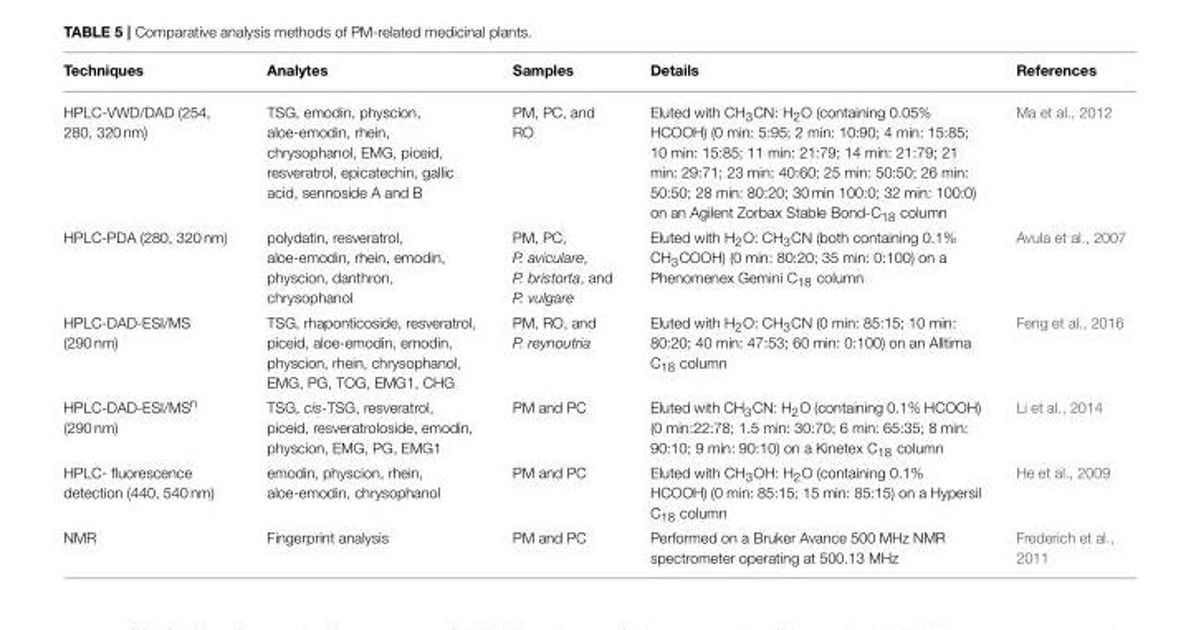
<table><thead><tr><td>Techniques</td><td>Analytes</td><td>Samples</td><td>Details</td><td>References</td></tr></thead><tbody><tr><td>HPLC-VWD/DAD (254, 280, 320 nm)</td><td>TSG, emodin, physcion, aloe-emodin, rhein, chrysophanol, EMG, piceid, resveratrol, epicatechin, gallic acid, sennoside A and B</td><td>PM, PC, and RO</td><td>Eluted with CH<sub>3</sub>CN: H<sub>2</sub>O (containing 0.05% HCOOH) (0 min: 5:95; 2 min: 10:90; 4 min: 15:85; 10 min: 15:85; 11 min: 21:79; 14 min: 21:79; 21 min: 29:71; 23 min: 40:60; 25 min: 50:50; 26 min: 50:50; 28 min: 80:20; 30 min 100:0; 32 min: 100:0) on an Agilent Zorbax Stable Bond-C<sub>18</sub> column</td><td>Ma et al., 2012</td></tr><tr><td>HPLC-PDA (280, 320 nm)</td><td>polydatin, resveratrol, aloe-emodin, rhein, emodin, physcion, danthron, chrysophanol</td><td>PM, PC, P. aviculare, P. bristorta, and P. vulgare</td><td>Eluted with H<sub>2</sub>O: CH<sub>3</sub>CN (both containing 0.1% CH<sub>3</sub>COOH) (0 min: 80:20; 35 min: 0:100) on a Phenomenex Gemini C<sub>18</sub> column</td><td>Avula et al., 2007</td></tr><tr><td>HPLC-DAD-ESI/MS (290 nm)</td><td>TSG, rhaponticoside, resveratrol, piceid, aloe-emodin, emodin, physcion, rhein, chrysophanol, EMG, PG, TOG, EMG1, CHG</td><td>PM, RO, and P. reynoutria</td><td>Eluted with H<sub>2</sub>O: CH<sub>3</sub>CN (0 min: 85:15; 10 min: 80:20; 40 min: 47:53; 60 min: 0:100) on an Alltima C<sub>18</sub> column</td><td>Feng et al., 2016</td></tr><tr><td>HPLC-DAD-ESI/MS<sup>n</sup> (290 nm)</td><td>TSG, cis-TSG, resveratrol, piceid, resveratroloside, emodin, physcion, EMG, PG, EMG1</td><td>PM and PC</td><td>Eluted with CH<sub>3</sub>CN: H<sub>2</sub>O (containing 0.1% HCOOH) (0 min:22:78; 1.5 min: 30:70; 6 min: 65:35; 8 min: 90:10; 9 min: 90:10) on a Kinetex C<sub>18</sub> column</td><td>Li et al., 2014</td></tr><tr><td>HPLC- fluorescence detection (440, 540 nm)</td><td>emodin, physcion, rhein, aloe-emodin, chrysophanol</td><td>PM and PC</td><td>Eluted with CH<sub>3</sub>OH: H<sub>2</sub>O (containing 0.1% HCOOH) (0 min: 85:15; 15 min: 85:15) on a Hypersil C<sub>18</sub> column</td><td>He et al., 2009</td></tr><tr><td>NMR</td><td>Fingerprint analysis</td><td>PM and PC</td><td>Performed on a Bruker Avance 500 MHz NMR spectrometer operating at 500.13 MHz</td><td>Frederich et al., 2011</td></tr></tbody></table>